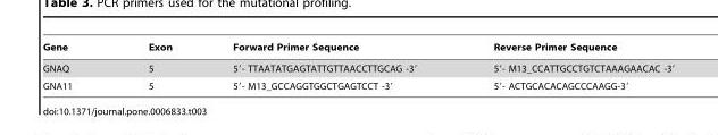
<table><thead><tr><td>Gene</td><td>Exon</td><td>Forward Primer Sequence</td><td>Reverse Primer Sequence</td></tr></thead><tbody><tr><td>GNAQ</td><td>5</td><td>5′- TTAATATGAGTATTGTTAACCTTGCAG -3′</td><td>5′- M13_CCATTGCCTGTCTAAAGAACAC -3′</td></tr><tr><td>GNA11</td><td>5</td><td>5′- M13_GCCAGGTGGCTGAGTCCT -3′</td><td>5′- ACTGCACACAGCCCAAGG-3′</td></tr></tbody></table>